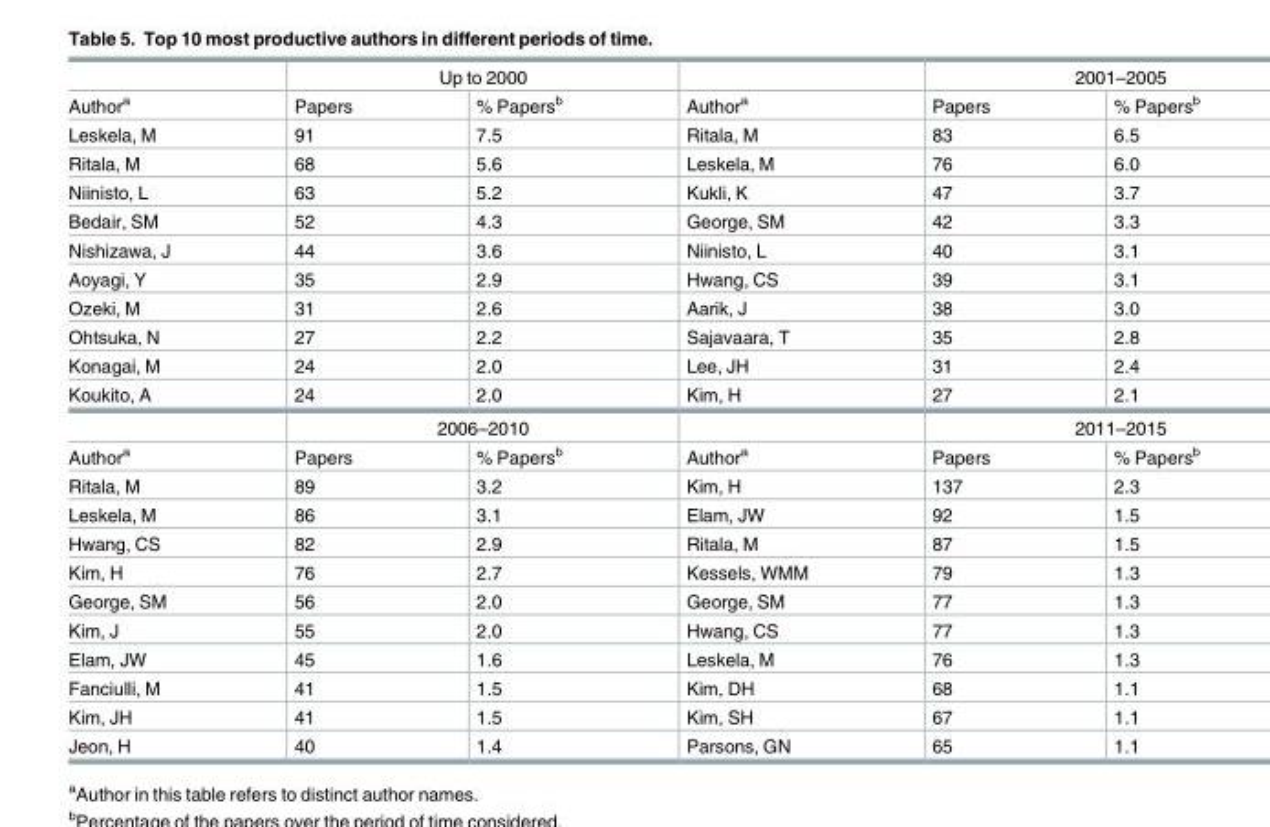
<table><thead><tr><td rowspan="2">Author<sup>a</sup></td><td colspan="2">Up to 2000</td><td rowspan="2">Author<sup>a</sup></td><td colspan="2">2001–2005</td></tr><tr><td>Papers</td><td>% Papers<sup>b</sup></td><td>Papers</td><td>% Papers<sup>b</sup></td></tr></thead><tbody><tr><td>Leskela, M</td><td>91</td><td>7.5</td><td>Ritala, M</td><td>83</td><td>6.5</td></tr><tr><td>Ritala, M</td><td>68</td><td>5.6</td><td>Leskela, M</td><td>76</td><td>6.0</td></tr><tr><td>Niinisto, L</td><td>63</td><td>5.2</td><td>Kukli, K</td><td>47</td><td>3.7</td></tr><tr><td>Bedair, SM</td><td>52</td><td>4.3</td><td>George, SM</td><td>42</td><td>3.3</td></tr><tr><td>Nishizawa, J</td><td>44</td><td>3.6</td><td>Niinisto, L</td><td>40</td><td>3.1</td></tr><tr><td>Aoyagi, Y</td><td>35</td><td>2.9</td><td>Hwang, CS</td><td>39</td><td>3.1</td></tr><tr><td>Ozeki, M</td><td>31</td><td>2.6</td><td>Aarik, J</td><td>38</td><td>3.0</td></tr><tr><td>Ohtsuka, N</td><td>27</td><td>2.2</td><td>Sajavaara, T</td><td>35</td><td>2.8</td></tr><tr><td>Konagai, M</td><td>24</td><td>2.0</td><td>Lee, JH</td><td>31</td><td>2.4</td></tr><tr><td rowspan="2">Koukito, A</td><td>24</td><td>2.0</td><td>Kim, H</td><td>27</td><td>2.1</td></tr><tr><td colspan="2">2006–2010</td><td></td><td colspan="2">2011–2015</td></tr><tr><td>Author<sup>a</sup></td><td>Papers</td><td>% Papers<sup>b</sup></td><td>Author<sup>a</sup></td><td>Papers</td><td>% Papers<sup>b</sup></td></tr><tr><td>Ritala, M</td><td>89</td><td>3.2</td><td>Kim, H</td><td>137</td><td>2.3</td></tr><tr><td>Leskela, M</td><td>86</td><td>3.1</td><td>Elam, JW</td><td>92</td><td>1.5</td></tr><tr><td>Hwang, CS</td><td>82</td><td>2.9</td><td>Ritala, M</td><td>87</td><td>1.5</td></tr><tr><td>Kim, H</td><td>76</td><td>2.7</td><td>Kessels, WMM</td><td>79</td><td>1.3</td></tr><tr><td>George, SM</td><td>56</td><td>2.0</td><td>George, SM</td><td>77</td><td>1.3</td></tr><tr><td>Kim, J</td><td>55</td><td>2.0</td><td>Hwang, CS</td><td>77</td><td>1.3</td></tr><tr><td>Elam, JW</td><td>45</td><td>1.6</td><td>Leskela, M</td><td>76</td><td>1.3</td></tr><tr><td>Fanciulli, M</td><td>41</td><td>1.5</td><td>Kim, DH</td><td>68</td><td>1.1</td></tr><tr><td>Kim, JH</td><td>41</td><td>1.5</td><td>Kim, SH</td><td>67</td><td>1.1</td></tr><tr><td>Jeon, H</td><td>40</td><td>1.4</td><td>Parsons, GN</td><td>65</td><td>1.1</td></tr></tbody></table>